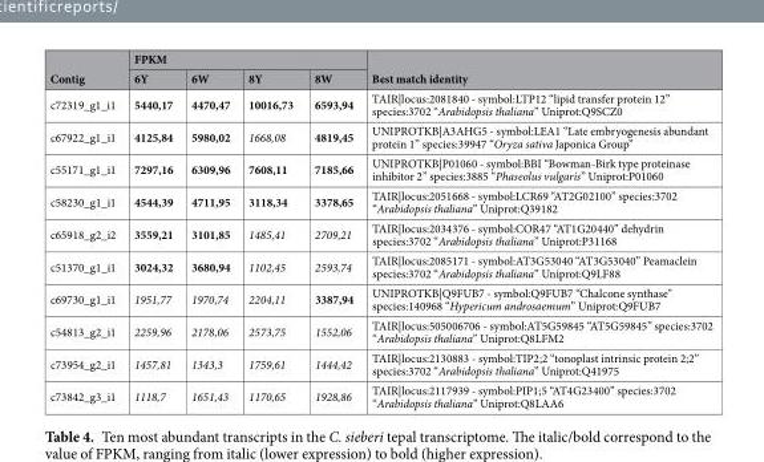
<table><thead><tr><td rowspan="2">Contig</td><td colspan="4">FPKM</td><td rowspan="2">Best match identity</td></tr><tr><td>6Y</td><td>6W</td><td>8Y</td><td>8W</td></tr></thead><tbody><tr><td>c72319_g1_i1</td><td>5440,17</td><td>4470,47</td><td>10016,73</td><td>6593,94</td><td>TAIR|locus:2081840 - symbol:LTP12 “lipid transfer protein 12” species:3702 “Arabidopsis thaliana” Uniprot:Q9SCZ0</td></tr><tr><td>c67922_g1_i1</td><td>4125,84</td><td>5980,02</td><td>1668,08</td><td>4819,45</td><td>UNIPROTKB|A3AHG5 - symbol:LEA1 “Late embryogenesis abundant protein 1” species:39947 “Oryza sativa Japonica Group”</td></tr><tr><td>c55171_g1_i1</td><td>7297,16</td><td>6309,96</td><td>7608,11</td><td>7185,66</td><td>UNIPROTKB|P01060 - symbol:BBI “Bowman-Birk type proteinase inhibitor 2” species:3885 “Phaseolus vulgaris” Uniprot:P01060</td></tr><tr><td>c58230_g1_i1</td><td>4544,39</td><td>4711,95</td><td>3118,34</td><td>3378,65</td><td>TAIR|locus:2051668 - symbol:LCR69 “AT2G02100” species:3702 “Arabidopsis thaliana” Uniprot:Q39182</td></tr><tr><td>c65918_g2_i2</td><td>3559,21</td><td>3101,85</td><td>1485,41</td><td>2709,21</td><td>TAIR|locus:2034376 - symbol:COR47 “AT1G20440” dehydrin species:3702 “Arabidopsis thaliana” Uniprot:P31168</td></tr><tr><td>c51370_g1_i1</td><td>3024,32</td><td>3680,94</td><td>1102,45</td><td>2593,74</td><td>TAIR|locus:2085171 - symbol:AT3G53040 “AT3G53040” Peamaclein species:3702 “Arabidopsis thaliana” Uniprot:Q9LF88</td></tr><tr><td>c69730_g1_i1</td><td>1951,77</td><td>1970,74</td><td>2204,11</td><td>3387,94</td><td>UNIPROTKB|Q9FUB7 - symbol:Q9FUB7 “Chalcone synthase” species:140968 “Hypericum androsaemum” Uniprot:Q9FUB7</td></tr><tr><td>c54813_g2_i1</td><td>2259,96</td><td>2178,06</td><td>2573,75</td><td>1552,06</td><td>TAIR|locus:505006706 - symbol:AT5G59845 “AT5G59845” species:3702 “Arabidopsis thaliana” Uniprot:Q8LFM2</td></tr><tr><td>c73954_g2_i1</td><td>1457,81</td><td>1343,3</td><td>1759,61</td><td>1444,42</td><td>TAIR|locus:2130883 - symbol:TIP2;2 “tonoplast intrinsic protein 2;2” species:3702 “Arabidopsis thaliana” Uniprot:Q41975</td></tr><tr><td>c73842_g3_i1</td><td>1118,7</td><td>1651,43</td><td>1170,65</td><td>1928,86</td><td>TAIR|locus:2117939 - symbol:PIP1;5 “AT4G23400” species:3702 “Arabidopsis thaliana” Uniprot:Q8LAA6</td></tr></tbody></table>